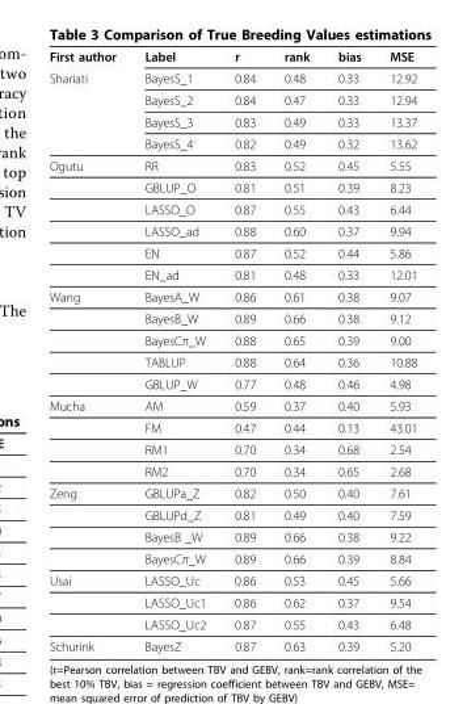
<table><thead><tr><td rowspan="5">First author Shariati</td><td rowspan="5">Label BayesS_1 BayesS_2 BayesS_3 BayesS_4</td><td rowspan="5">r 0.84 0.84 0.83 0.82</td><td rowspan="5">rank 0.48 0.47 0.49 0.49</td><td rowspan="5">bias 0.33 0.33 0.33 0.32</td><td rowspan="5">MSE 12.92 12.94 13.37 13.62</td></tr><tr></tr><tr></tr><tr></tr><tr></tr></thead><tbody><tr><td rowspan="6">Ogutu</td><td>RR</td><td>0.83</td><td>0.52</td><td>0.45</td><td>5.55</td></tr><tr><td>GBLUP_O</td><td>0.81</td><td>0.51</td><td>0.39</td><td>8.23</td></tr><tr><td>LASSO_O</td><td>0.87</td><td>0.55</td><td>0.43</td><td>6.44</td></tr><tr><td>LASSO_ad</td><td>0.88</td><td>0.60</td><td>0.37</td><td>9.94</td></tr><tr><td>EN</td><td>0.87</td><td>0.52</td><td>0.44</td><td>5.86</td></tr><tr><td>EN_ad</td><td>0.81</td><td>0.48</td><td>0.33</td><td>12.01</td></tr><tr><td rowspan="5">Wang</td><td>BayesA_W</td><td>0.86</td><td>0.61</td><td>0.38</td><td>9.07</td></tr><tr><td>BayesB_W</td><td>0.89</td><td>0.66</td><td>0.38</td><td>9.12</td></tr><tr><td>BayesCπ_W</td><td>0.88</td><td>0.65</td><td>0.39</td><td>9.00</td></tr><tr><td>TABLUP</td><td>0.88</td><td>0.64</td><td>0.36</td><td>10.88</td></tr><tr><td>GBLUP_W</td><td>0.77</td><td>0.48</td><td>0.46</td><td>4.98</td></tr><tr><td rowspan="4">Mucha</td><td>AM</td><td>0.59</td><td>0.37</td><td>0.40</td><td>5.93</td></tr><tr><td>FM</td><td>0.47</td><td>0.44</td><td>0.13</td><td>43.01</td></tr><tr><td>RM1</td><td>0.70</td><td>0.34</td><td>0.68</td><td>2.54</td></tr><tr><td>RM2</td><td>0.70</td><td>0.34</td><td>0.65</td><td>2.68</td></tr><tr><td rowspan="4">Zeng</td><td>GBLUPa_Z</td><td>0.82</td><td>0.50</td><td>0.40</td><td>7.61</td></tr><tr><td>GBLUPd_Z</td><td>0.81</td><td>0.49</td><td>0.40</td><td>7.59</td></tr><tr><td>BayesB _W</td><td>0.89</td><td>0.66</td><td>0.38</td><td>9.22</td></tr><tr><td>BayesCπ_W</td><td>0.89</td><td>0.66</td><td>0.39</td><td>8.84</td></tr><tr><td rowspan="3">Usai</td><td>LASSO_Uc</td><td>0.86</td><td>0.53</td><td>0.45</td><td>5.66</td></tr><tr><td>LASSO_Uc1</td><td>0.86</td><td>0.62</td><td>0.37</td><td>9.54</td></tr><tr><td>LASSO_Uc2</td><td>0.87</td><td>0.55</td><td>0.43</td><td>6.48</td></tr><tr><td>Schurink</td><td>BayesZ</td><td>0.87</td><td>0.63</td><td>0.39</td><td>5.20</td></tr></tbody></table>